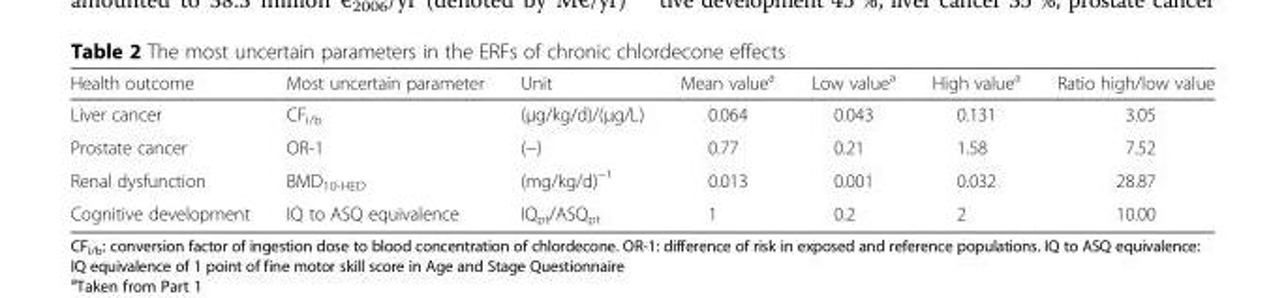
<table><thead><tr><td>Health outcome</td><td>Most uncertain parameter</td><td>Unit</td><td>Mean value<sup>a</sup></td><td>Low value<sup>a</sup></td><td>High value<sup>a</sup></td><td>Ratio high/low value</td></tr></thead><tbody><tr><td>Liver cancer</td><td>CF<sub>i/b</sub></td><td>(μg/kg/d)/(μg/L)</td><td>0.064</td><td>0.043</td><td>0.131</td><td>3.05</td></tr><tr><td>Prostate cancer</td><td>OR-1</td><td>(−)</td><td>0.77</td><td>0.21</td><td>1.58</td><td>7.52</td></tr><tr><td>Renal dysfunction</td><td>BMD<sub>10-HED</sub></td><td>(mg/kg/d)<sup>−1</sup></td><td>0.013</td><td>0.001</td><td>0.032</td><td>28.87</td></tr><tr><td>Cognitive development</td><td>IQ to ASQ equivalence</td><td>IQ<sub>pt</sub>/ASQ<sub>pt</sub></td><td>1</td><td>0.2</td><td>2</td><td>10.00</td></tr></tbody></table>